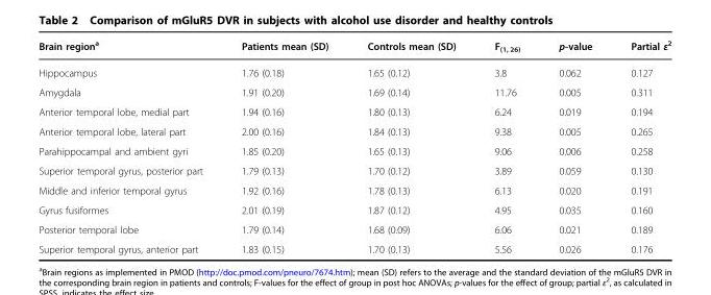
<table><thead><tr><td>Brain region<sup>a</sup></td><td>Patients mean (SD)</td><td>Controls mean (SD)</td><td>F<sub>(1, 26)</sub></td><td>p-value</td><td>Partial ε<sup>2</sup></td></tr></thead><tbody><tr><td>Hippocampus</td><td>1.76 (0.18)</td><td>1.65 (0.12)</td><td>3.8</td><td>0.062</td><td>0.127</td></tr><tr><td>Amygdala</td><td>1.91 (0.20)</td><td>1.69 (0.14)</td><td>11.76</td><td>0.005</td><td>0.311</td></tr><tr><td>Anterior temporal lobe, medial part</td><td>1.94 (0.16)</td><td>1.80 (0.13)</td><td>6.24</td><td>0.019</td><td>0.194</td></tr><tr><td>Anterior temporal lobe, lateral part</td><td>2.00 (0.16)</td><td>1.84 (0.13)</td><td>9.38</td><td>0.005</td><td>0.265</td></tr><tr><td>Parahippocampal and ambient gyri</td><td>1.85 (0.20)</td><td>1.65 (0.13)</td><td>9.06</td><td>0.006</td><td>0.258</td></tr><tr><td>Superior temporal gyrus, posterior part</td><td>1.79 (0.13)</td><td>1.70 (0.12)</td><td>3.89</td><td>0.059</td><td>0.130</td></tr><tr><td>Middle and inferior temporal gyrus</td><td>1.92 (0.16)</td><td>1.78 (0.13)</td><td>6.13</td><td>0.020</td><td>0.191</td></tr><tr><td>Gyrus fusiformes</td><td>2.01 (0.19)</td><td>1.87 (0.12)</td><td>4.95</td><td>0.035</td><td>0.160</td></tr><tr><td>Posterior temporal lobe</td><td>1.79 (0.14)</td><td>1.68 (0.09)</td><td>6.06</td><td>0.021</td><td>0.189</td></tr><tr><td>Superior temporal gyrus, anterior part</td><td>1.83 (0.15)</td><td>1.70 (0.13)</td><td>5.56</td><td>0.026</td><td>0.176</td></tr></tbody></table>